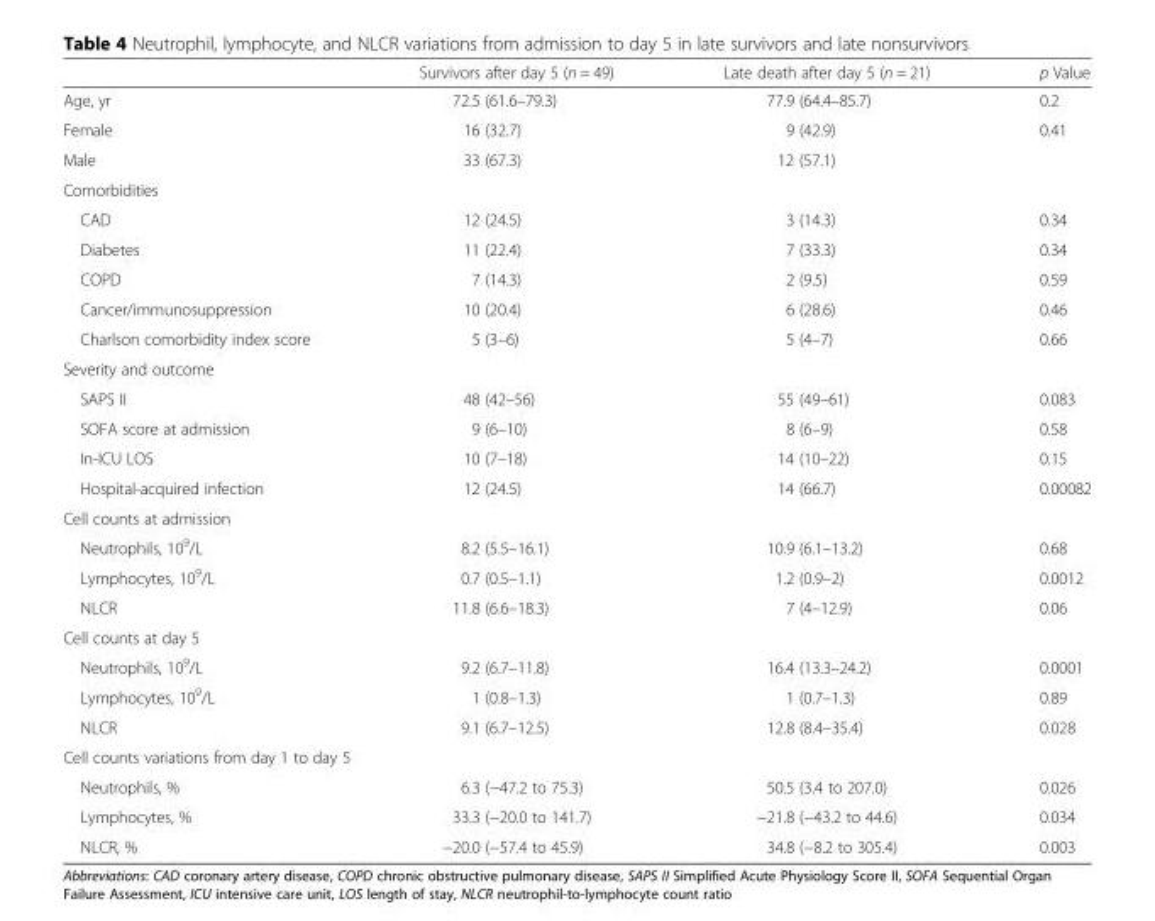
<table><thead><tr><td></td><td>Survivors after day 5 (n = 49)</td><td>Late death after day 5 (n = 21)</td><td>p Value</td></tr></thead><tbody><tr><td>Age, yr</td><td>72.5 (61.6–79.3)</td><td>77.9 (64.4–85.7)</td><td>0.2</td></tr><tr><td>Female</td><td>16 (32.7)</td><td>9 (42.9)</td><td>0.41</td></tr><tr><td>Male</td><td>33 (67.3)</td><td>12 (57.1)</td><td></td></tr><tr><td colspan="4">Comorbidities</td></tr><tr><td>CAD</td><td>12 (24.5)</td><td>3 (14.3)</td><td>0.34</td></tr><tr><td>Diabetes</td><td>11 (22.4)</td><td>7 (33.3)</td><td>0.34</td></tr><tr><td>COPD</td><td>7 (14.3)</td><td>2 (9.5)</td><td>0.59</td></tr><tr><td>Cancer/immunosuppression</td><td>10 (20.4)</td><td>6 (28.6)</td><td>0.46</td></tr><tr><td>Charlson comorbidity index score</td><td>5 (3–6)</td><td>5 (4–7)</td><td>0.66</td></tr><tr><td colspan="4">Severity and outcome</td></tr><tr><td>SAPS II</td><td>48 (42–56)</td><td>55 (49–61)</td><td>0.083</td></tr><tr><td>SOFA score at admission</td><td>9 (6–10)</td><td>8 (6–9)</td><td>0.58</td></tr><tr><td>In-ICU LOS</td><td>10 (7–18)</td><td>14 (10–22)</td><td>0.15</td></tr><tr><td>Hospital-acquired infection</td><td>12 (24.5)</td><td>14 (66.7)</td><td>0.00082</td></tr><tr><td colspan="4">Cell counts at admission</td></tr><tr><td>Neutrophils, 10<sup>9</sup>/L</td><td>8.2 (5.5–16.1)</td><td>10.9 (6.1–13.2)</td><td>0.68</td></tr><tr><td>Lymphocytes, 10<sup>9</sup>/L</td><td>0.7 (0.5–1.1)</td><td>1.2 (0.9–2)</td><td>0.0012</td></tr><tr><td>NLCR</td><td>11.8 (6.6–18.3)</td><td>7 (4–12.9)</td><td>0.06</td></tr><tr><td colspan="4">Cell counts at day 5</td></tr><tr><td>Neutrophils, 10<sup>9</sup>/L</td><td>9.2 (6.7–11.8)</td><td>16.4 (13.3–24.2)</td><td>0.0001</td></tr><tr><td>Lymphocytes, 10<sup>9</sup>/L</td><td>1 (0.8–1.3)</td><td>1 (0.7–1.3)</td><td>0.89</td></tr><tr><td>NLCR</td><td>9.1 (6.7–12.5)</td><td>12.8 (8.4–35.4)</td><td>0.028</td></tr><tr><td colspan="4">Cell counts variations from day 1 to day 5</td></tr><tr><td>Neutrophils, %</td><td>6.3 (−47.2 to 75.3)</td><td>50.5 (3.4 to 207.0)</td><td>0.026</td></tr><tr><td>Lymphocytes, %</td><td>33.3 (−20.0 to 141.7)</td><td>−21.8 (−43.2 to 44.6)</td><td>0.034</td></tr><tr><td>NLCR, %</td><td>−20.0 (−57.4 to 45.9)</td><td>34.8 (−8.2 to 305.4)</td><td>0.003</td></tr></tbody></table>